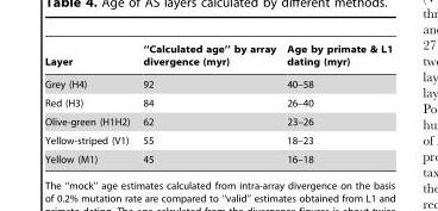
<table><thead><tr><td>Layer</td><td>‘‘Calculated age’’ by array divergence (myr)</td><td>Age by primate &amp; L1 dating (myr)</td></tr></thead><tbody><tr><td>Grey (H4)</td><td>92</td><td>40–58</td></tr><tr><td>Red (H3)</td><td>84</td><td>26–40</td></tr><tr><td>Olive-green (H1H2)</td><td>62</td><td>23–26</td></tr><tr><td>Yellow-striped (V1)</td><td>55</td><td>18–23</td></tr><tr><td>Yellow (M1)</td><td>45</td><td>16–18</td></tr></tbody></table>